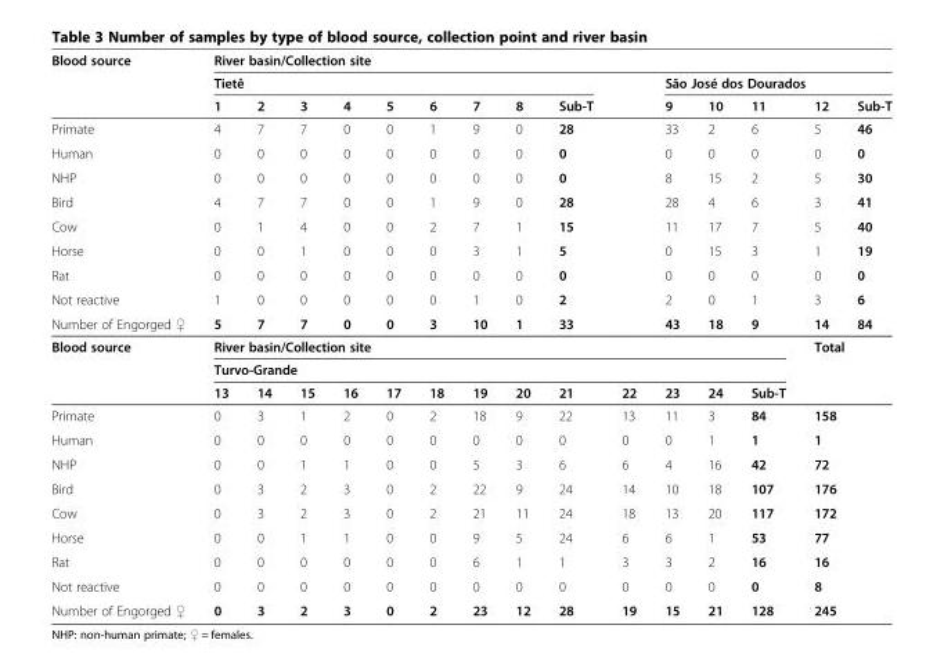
<table><thead><tr><td rowspan="3">Blood source</td><td colspan="15">River basin/Collection site</td></tr><tr><td colspan="9">Tietê</td><td rowspan="2"></td><td colspan="5">São José dos Dourados</td></tr><tr><td>1</td><td>2</td><td>3</td><td>4</td><td>5</td><td>6</td><td>7</td><td>8</td><td>Sub-T</td><td>9</td><td>10</td><td>11</td><td>12</td><td>Sub-T</td></tr></thead><tbody><tr><td>Primate</td><td>4</td><td>7</td><td>7</td><td>0</td><td>0</td><td>1</td><td>9</td><td>0</td><td>28</td><td></td><td>33</td><td>2</td><td>6</td><td>5</td><td>46</td></tr><tr><td>Human</td><td>0</td><td>0</td><td>0</td><td>0</td><td>0</td><td>0</td><td>0</td><td>0</td><td>0</td><td></td><td>0</td><td>0</td><td>0</td><td>0</td><td>0</td></tr><tr><td>NHP</td><td>0</td><td>0</td><td>0</td><td>0</td><td>0</td><td>0</td><td>0</td><td>0</td><td>0</td><td></td><td>8</td><td>15</td><td>2</td><td>5</td><td>30</td></tr><tr><td>Bird</td><td>4</td><td>7</td><td>7</td><td>0</td><td>0</td><td>1</td><td>9</td><td>0</td><td>28</td><td></td><td>28</td><td>4</td><td>6</td><td>3</td><td>41</td></tr><tr><td>Cow</td><td>0</td><td>1</td><td>4</td><td>0</td><td>0</td><td>2</td><td>7</td><td>1</td><td>15</td><td></td><td>11</td><td>17</td><td>7</td><td>5</td><td>40</td></tr><tr><td>Horse</td><td>0</td><td>0</td><td>1</td><td>0</td><td>0</td><td>0</td><td>3</td><td>1</td><td>5</td><td></td><td>0</td><td>15</td><td>3</td><td>1</td><td>19</td></tr><tr><td>Rat</td><td>0</td><td>0</td><td>0</td><td>0</td><td>0</td><td>0</td><td>0</td><td>0</td><td>0</td><td></td><td>0</td><td>0</td><td>0</td><td>0</td><td>0</td></tr><tr><td>Not reactive</td><td>1</td><td>0</td><td>0</td><td>0</td><td>0</td><td>0</td><td>1</td><td>0</td><td>2</td><td></td><td>2</td><td>0</td><td>1</td><td>3</td><td>6</td></tr><tr><td>Number of Engorged ♀</td><td>5</td><td>7</td><td>7</td><td>0</td><td>0</td><td>3</td><td>10</td><td>1</td><td>33</td><td></td><td>43</td><td>18</td><td>9</td><td>14</td><td>84</td></tr><tr><td rowspan="3">Blood source</td><td colspan="13">River basin/Collection site</td><td rowspan="3" colspan="2">Total</td></tr><tr><td colspan="13">Turvo-Grande</td></tr><tr><td>13</td><td>14</td><td>15</td><td>16</td><td>17</td><td>18</td><td>19</td><td>20</td><td>21</td><td>22</td><td>23</td><td>24</td><td>Sub-T</td></tr><tr><td>Primate</td><td>0</td><td>3</td><td>1</td><td>2</td><td>0</td><td>2</td><td>18</td><td>9</td><td>22</td><td>13</td><td>11</td><td>3</td><td>84</td><td colspan="2">158</td></tr><tr><td>Human</td><td>0</td><td>0</td><td>0</td><td>0</td><td>0</td><td>0</td><td>0</td><td>0</td><td>0</td><td>0</td><td>0</td><td>1</td><td>1</td><td colspan="2">1</td></tr><tr><td>NHP</td><td>0</td><td>0</td><td>1</td><td>1</td><td>0</td><td>0</td><td>5</td><td>3</td><td>6</td><td>6</td><td>4</td><td>16</td><td>42</td><td colspan="2">72</td></tr><tr><td>Bird</td><td>0</td><td>3</td><td>2</td><td>3</td><td>0</td><td>2</td><td>22</td><td>9</td><td>24</td><td>14</td><td>10</td><td>18</td><td>107</td><td colspan="2">176</td></tr><tr><td>Cow</td><td>0</td><td>3</td><td>2</td><td>3</td><td>0</td><td>2</td><td>21</td><td>11</td><td>24</td><td>18</td><td>13</td><td>20</td><td>117</td><td colspan="2">172</td></tr><tr><td>Horse</td><td>0</td><td>0</td><td>1</td><td>1</td><td>0</td><td>0</td><td>9</td><td>5</td><td>24</td><td>6</td><td>6</td><td>1</td><td>53</td><td colspan="2">77</td></tr><tr><td>Rat</td><td>0</td><td>0</td><td>0</td><td>0</td><td>0</td><td>0</td><td>6</td><td>1</td><td>1</td><td>3</td><td>3</td><td>2</td><td>16</td><td colspan="2">16</td></tr><tr><td>Not reactive</td><td>0</td><td>0</td><td>0</td><td>0</td><td>0</td><td>0</td><td>0</td><td>0</td><td>0</td><td>0</td><td>0</td><td>0</td><td>0</td><td colspan="2">8</td></tr><tr><td>Number of Engorged ♀</td><td>0</td><td>3</td><td>2</td><td>3</td><td>0</td><td>2</td><td>23</td><td>12</td><td>28</td><td>19</td><td>15</td><td>21</td><td>128</td><td colspan="2">245</td></tr></tbody></table>